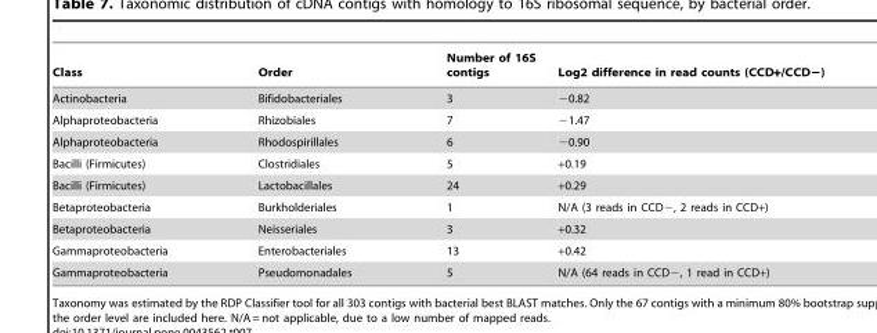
<table><thead><tr><td>Class</td><td>Order</td><td>Number of 16S contigs</td><td>Log2 difference in read counts (CCD+/CCD−)</td></tr></thead><tbody><tr><td>Actinobacteria</td><td>Bifidobacteriales</td><td>3</td><td>−0.82</td></tr><tr><td>Alphaproteobacteria</td><td>Rhizobiales</td><td>7</td><td>−1.47</td></tr><tr><td>Alphaproteobacteria</td><td>Rhodospirillales</td><td>6</td><td>−0.90</td></tr><tr><td>Bacilli (Firmicutes)</td><td>Clostridiales</td><td>5</td><td>+0.19</td></tr><tr><td>Bacilli (Firmicutes)</td><td>Lactobacillales</td><td>24</td><td>+0.29</td></tr><tr><td>Betaproteobacteria</td><td>Burkholderiales</td><td>1</td><td>N/A (3 reads in CCD−, 2 reads in CCD+)</td></tr><tr><td>Betaproteobacteria</td><td>Neisseriales</td><td>3</td><td>+0.32</td></tr><tr><td>Gammaproteobacteria</td><td>Enterobacteriales</td><td>13</td><td>+0.42</td></tr><tr><td>Gammaproteobacteria</td><td>Pseudomonadales</td><td>5</td><td>N/A (64 reads in CCD−, 1 read in CCD+)</td></tr></tbody></table>